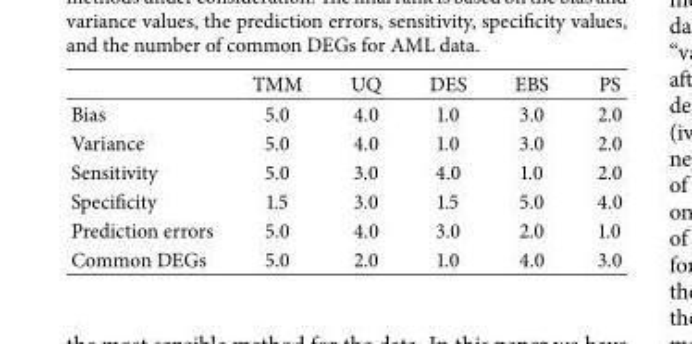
<table><thead><tr><td></td><td>TMM</td><td>UQ</td><td>DES</td><td>EBS</td><td>PS</td></tr></thead><tbody><tr><td>Bias</td><td>5.0</td><td>4.0</td><td>1.0</td><td>3.0</td><td>2.0</td></tr><tr><td>Variance</td><td>5.0</td><td>4.0</td><td>1.0</td><td>3.0</td><td>2.0</td></tr><tr><td>Sensitivity</td><td>5.0</td><td>3.0</td><td>4.0</td><td>1.0</td><td>2.0</td></tr><tr><td>Specificity</td><td>1.5</td><td>3.0</td><td>1.5</td><td>5.0</td><td>4.0</td></tr><tr><td>Prediction errors</td><td>5.0</td><td>4.0</td><td>3.0</td><td>2.0</td><td>1.0</td></tr><tr><td>Common DEGs</td><td>5.0</td><td>2.0</td><td>1.0</td><td>4.0</td><td>3.0</td></tr></tbody></table>